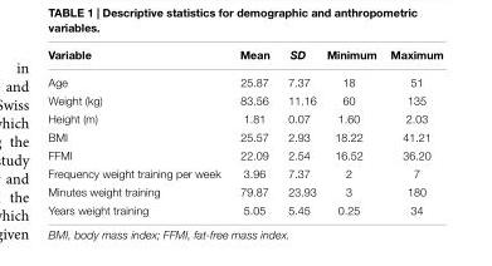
<table><thead><tr><td>Variable</td><td>Mean</td><td>SD</td><td>Minimum</td><td>Maximum</td></tr></thead><tbody><tr><td>Age</td><td>25.87</td><td>7.37</td><td>18</td><td>51</td></tr><tr><td>Weight (kg)</td><td>83.56</td><td>11.16</td><td>60</td><td>135</td></tr><tr><td>Height (m)</td><td>1.81</td><td>0.07</td><td>1.60</td><td>2.03</td></tr><tr><td>BMI</td><td>25.57</td><td>2.93</td><td>18.22</td><td>41.21</td></tr><tr><td>FFMI</td><td>22.09</td><td>2.54</td><td>16.52</td><td>36.20</td></tr><tr><td>Frequency weight training per week</td><td>3.96</td><td>7.37</td><td>2</td><td>7</td></tr><tr><td>Minutes weight training</td><td>79.87</td><td>23.93</td><td>3</td><td>180</td></tr><tr><td>Years weight training</td><td>5.05</td><td>5.45</td><td>0.25</td><td>34</td></tr></tbody></table>